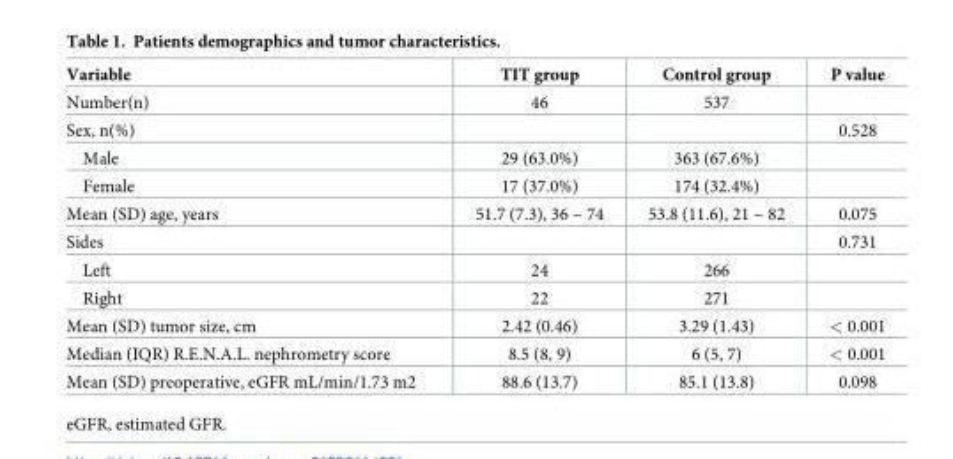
<table><thead><tr><td>Variable</td><td>TIT group</td><td>Control group</td><td>P value</td></tr></thead><tbody><tr><td>Number(n)</td><td>46</td><td>537</td><td></td></tr><tr><td>Sex, n(%)</td><td></td><td></td><td>0.528</td></tr><tr><td>Male</td><td>29 (63.0%)</td><td>363 (67.6%)</td><td></td></tr><tr><td>Female</td><td>17 (37.0%)</td><td>174 (32.4%)</td><td></td></tr><tr><td>Mean (SD) age, years</td><td>51.7 (7.3), 36 ~ 74</td><td>53.8 (11.6), 21 ~ 82</td><td>0.075</td></tr><tr><td>Sides</td><td></td><td></td><td>0.731</td></tr><tr><td>Left</td><td>24</td><td>266</td><td></td></tr><tr><td>Right</td><td>22</td><td>271</td><td></td></tr><tr><td>Mean (SD) tumor size, cm</td><td>2.42 (0.46)</td><td>3.29 (1.43)</td><td>&lt; 0.001</td></tr><tr><td>Median (IQR) R.E.N.A.L. nephrometry score</td><td>8.5 (8, 9)</td><td>6 (5, 7)</td><td>&lt; 0.001</td></tr><tr><td>Mean (SD) preoperative, eGFR mL/min/1.73 m2</td><td>88.6 (13.7)</td><td>85.1 (13.8)</td><td>0.098</td></tr></tbody></table>